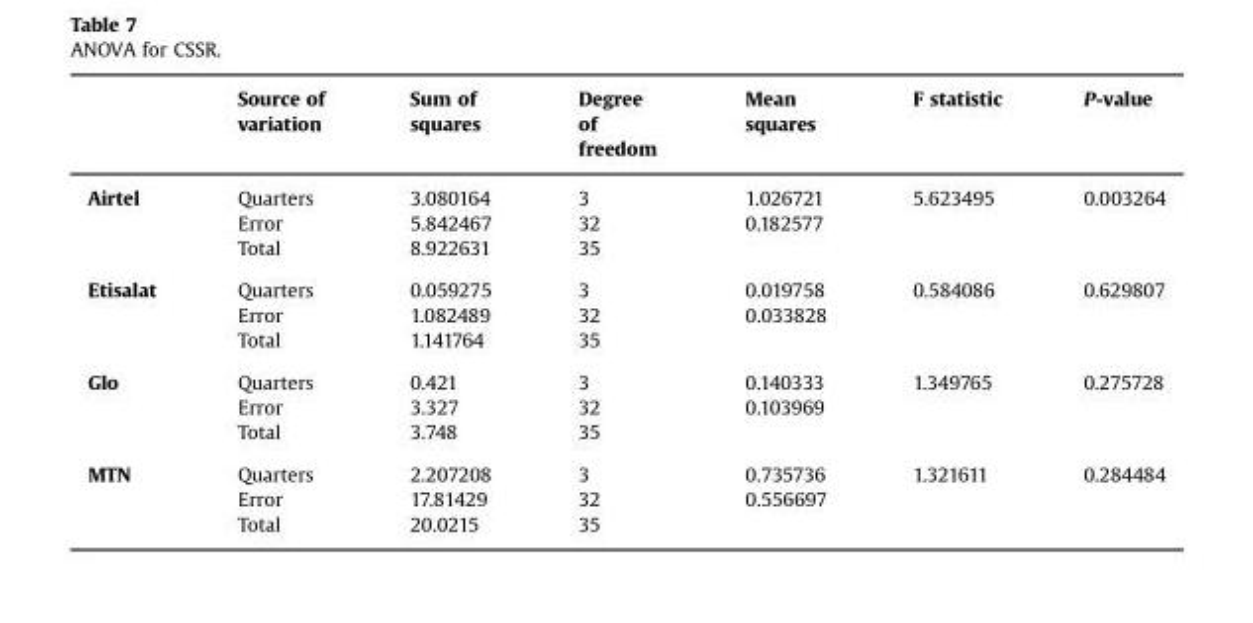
<table><thead><tr><td></td><td>Source of variation</td><td>Sum of squares</td><td>Degree of freedom</td><td>Mean squares</td><td>F statistic</td><td>P-value</td></tr></thead><tbody><tr><td rowspan="3">Airtel</td><td>Quarters</td><td>3.080164</td><td>3</td><td>1.026721</td><td>5.623495</td><td>0.003264</td></tr><tr><td>Error</td><td>5.842467</td><td>32</td><td>0.182577</td><td></td><td></td></tr><tr><td>Total</td><td>8.922631</td><td>35</td><td></td><td></td><td></td></tr><tr><td rowspan="3">Etisalat</td><td>Quarters</td><td>0.059275</td><td>3</td><td>0.019758</td><td>0.584086</td><td>0.629807</td></tr><tr><td>Error</td><td>1.082489</td><td>32</td><td>0.033828</td><td></td><td></td></tr><tr><td>Total</td><td>1.141764</td><td>35</td><td></td><td></td><td></td></tr><tr><td rowspan="3">Glo</td><td>Quarters</td><td>0.421</td><td>3</td><td>0.140333</td><td>1.349765</td><td>0.275728</td></tr><tr><td>Error</td><td>3.327</td><td>32</td><td>0.103969</td><td></td><td></td></tr><tr><td>Total</td><td>3.748</td><td>35</td><td></td><td></td><td></td></tr><tr><td rowspan="3">MTN</td><td>Quarters</td><td>2.207208</td><td>3</td><td>0.735736</td><td>1.321611</td><td>0.284484</td></tr><tr><td>Error</td><td>17.81429</td><td>32</td><td>0.556697</td><td></td><td></td></tr><tr><td>Total</td><td>20.0215</td><td>35</td><td></td><td></td><td></td></tr></tbody></table>